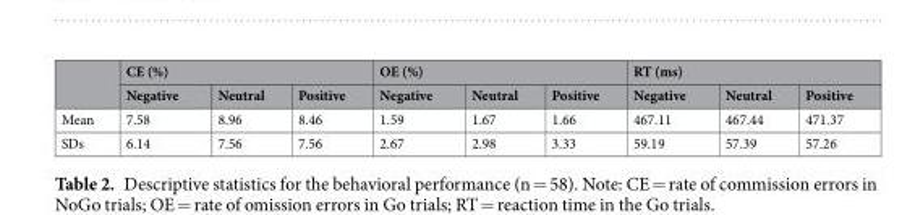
<table><thead><tr><td rowspan="2"></td><td colspan="3">CE (%)</td><td colspan="3">OE (%)</td><td colspan="3">RT (ms)</td></tr><tr><td>Negative</td><td>Neutral</td><td>Positive</td><td>Negative</td><td>Neutral</td><td>Positive</td><td>Negative</td><td>Neutral</td><td>Positive</td></tr></thead><tbody><tr><td>Mean</td><td>7.58</td><td>8.96</td><td>8.46</td><td>1.59</td><td>1.67</td><td>1.66</td><td>467.11</td><td>467.44</td><td>471.37</td></tr><tr><td>SDs</td><td>6.14</td><td>7.56</td><td>7.56</td><td>2.67</td><td>2.98</td><td>3.33</td><td>59.19</td><td>57.39</td><td>57.26</td></tr></tbody></table>